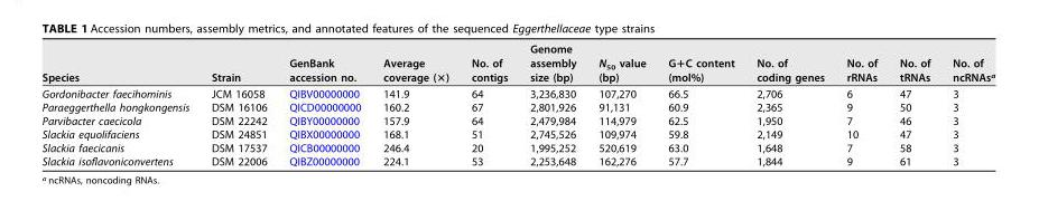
<table><thead><tr><td>Species</td><td>Strain</td><td>GenBank accession no.</td><td>Average coverage (×)</td><td>No. of contigs</td><td>Genome assembly size (bp)</td><td>N<sub>50</sub> value (bp)</td><td>G+C content (mol%)</td><td>No. of coding genes</td><td>No. of rRNAs</td><td>No. of tRNAs</td><td>No. of ncRNAs<sup>a</sup></td></tr></thead><tbody><tr><td>Gordonibacter faecihominis</td><td>JCM 16058</td><td>QIBV00000000</td><td>141.9</td><td>64</td><td>3,236,830</td><td>107,270</td><td>66.5</td><td>2,706</td><td>6</td><td>47</td><td>3</td></tr><tr><td>Paraeggerthella hongkongensis</td><td>DSM 16106</td><td>QICD00000000</td><td>160.2</td><td>67</td><td>2,801,926</td><td>91,131</td><td>60.9</td><td>2,365</td><td>9</td><td>50</td><td>3</td></tr><tr><td>Parvibacter caecicola</td><td>DSM 22242</td><td>QIBY00000000</td><td>157.9</td><td>64</td><td>2,479,984</td><td>114,979</td><td>62.5</td><td>1,950</td><td>7</td><td>46</td><td>3</td></tr><tr><td>Slackia equolifaciens</td><td>DSM 24851</td><td>QIBX00000000</td><td>168.1</td><td>51</td><td>2,745,526</td><td>109,974</td><td>59.8</td><td>2,149</td><td>10</td><td>47</td><td>3</td></tr><tr><td>Slackia faecicanis</td><td>DSM 17537</td><td>QICB00000000</td><td>246.4</td><td>20</td><td>1,995,252</td><td>520,619</td><td>63.0</td><td>1,648</td><td>7</td><td>58</td><td>3</td></tr><tr><td>Slackia isoflavoniconvertens</td><td>DSM 22006</td><td>QIBZ00000000</td><td>224.1</td><td>53</td><td>2,253,648</td><td>162,276</td><td>57.7</td><td>1,844</td><td>9</td><td>61</td><td>3</td></tr></tbody></table>